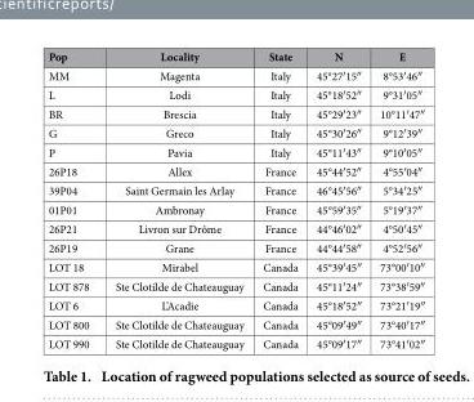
<table><thead><tr><td>Pop</td><td>Locality</td><td>State</td><td>N</td><td>E</td></tr></thead><tbody><tr><td>MM</td><td>Magenta</td><td>Italy</td><td>45°27′ 15″</td><td>8°53′ 46″</td></tr><tr><td>L</td><td>Lodi</td><td>Italy</td><td>45°18′ 52″</td><td>9°31′ 05″</td></tr><tr><td>BR</td><td>Brescia</td><td>Italy</td><td>45°29′ 23″</td><td>10°11′ 47″</td></tr><tr><td>G</td><td>Greco</td><td>Italy</td><td>45°30′ 26″</td><td>9°12′ 39″</td></tr><tr><td>P</td><td>Pavia</td><td>Italy</td><td>45°11′ 43″</td><td>9°10′ 05″</td></tr><tr><td>26P18</td><td>Allex</td><td>France</td><td>45°44′ 52″</td><td>4°55′ 04″</td></tr><tr><td>39P04</td><td>Saint Germain les Arlay</td><td>France</td><td>46°45′ 56″</td><td>5°34′ 25″</td></tr><tr><td>01P01</td><td>Ambronay</td><td>France</td><td>45°59′ 35″</td><td>5°19′ 37″</td></tr><tr><td>26P21</td><td>Livron sur Drôme</td><td>France</td><td>44°46′ 02″</td><td>4°50′ 45″</td></tr><tr><td>26P19</td><td>Grane</td><td>France</td><td>44°44′ 58″</td><td>4°52′ 56″</td></tr><tr><td>LOT 18</td><td>Mirabel</td><td>Canada</td><td>45°39′ 45″</td><td>73°00′ 10″</td></tr><tr><td>LOT 878</td><td>Ste Clotilde de Chateauguay</td><td>Canada</td><td>45°11′ 24″</td><td>73°38′ 59″</td></tr><tr><td>LOT 6</td><td>L’Acadie</td><td>Canada</td><td>45°18′ 52″</td><td>73°21′ 19″</td></tr><tr><td>LOT 800</td><td>Ste Clotilde de Chateauguay</td><td>Canada</td><td>45°09′ 49″</td><td>73°40′ 17″</td></tr><tr><td>LOT 990</td><td>Ste Clotilde de Chateauguay</td><td>Canada</td><td>45°09′ 17″</td><td>73°41′ 02″</td></tr></tbody></table>